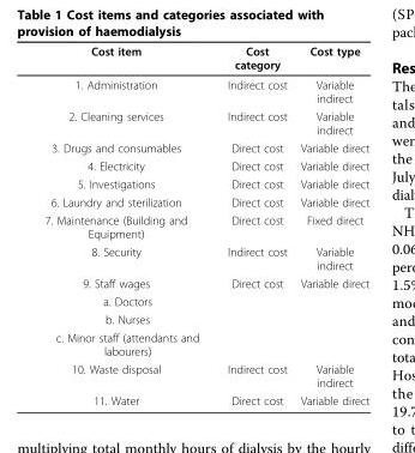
<table><thead><tr><td>Cost item</td><td>Cost category</td><td>Cost type</td></tr></thead><tbody><tr><td>1. Administration</td><td>Indirect cost</td><td>Variable indirect</td></tr><tr><td>2. Cleaning services</td><td>Indirect cost</td><td>Variable indirect</td></tr><tr><td>3. Drugs and consumables</td><td>Direct cost</td><td>Variable direct</td></tr><tr><td>4. Electricity</td><td>Direct cost</td><td>Variable direct</td></tr><tr><td>5. Investigations</td><td>Direct cost</td><td>Variable direct</td></tr><tr><td>6. Laundry and sterilization</td><td>Direct cost</td><td>Variable direct</td></tr><tr><td>7. Maintenance (Building and Equipment)</td><td>Direct cost</td><td>Fixed direct</td></tr><tr><td>8. Security</td><td>Indirect cost</td><td>Variable indirect</td></tr><tr><td>9. Staff wages</td><td>Direct cost</td><td>Variable direct</td></tr><tr><td colspan="3">a. Doctors</td></tr><tr><td colspan="3">b. Nurses</td></tr><tr><td colspan="3">c. Minor staff (attendants and labourers)</td></tr><tr><td>10. Waste disposal</td><td>Indirect cost</td><td>Variable indirect</td></tr><tr><td>11. Water</td><td>Direct cost</td><td>Variable direct</td></tr></tbody></table>